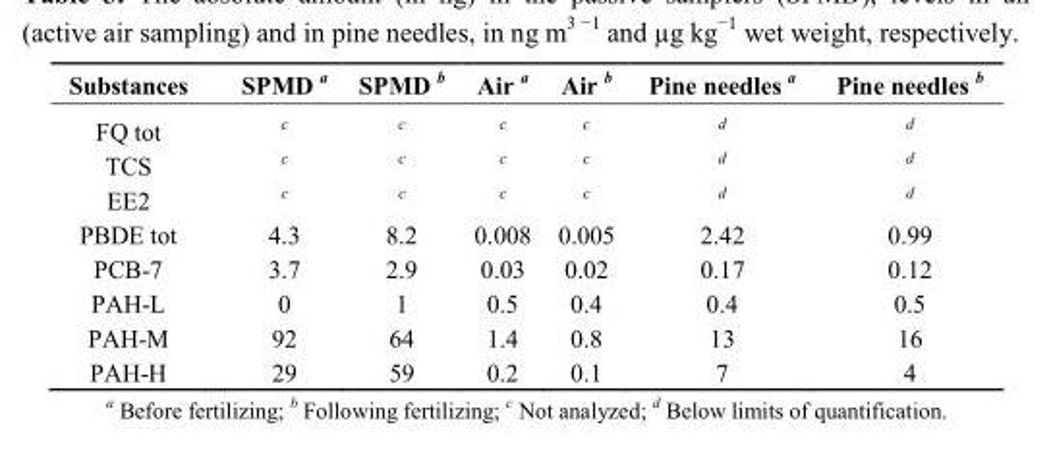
<table><thead><tr><td>Substances</td><td>SPMD <sup>a</sup></td><td>SPMD <sup>b</sup></td><td>Air <sup>a</sup></td><td>Air <sup>b</sup></td><td>Pine needles <sup>a</sup></td><td>Pine needles <sup>b</sup></td></tr></thead><tbody><tr><td>FQ tot</td><td><sup>c</sup></td><td><sup>c</sup></td><td><sup>c</sup></td><td><sup>c</sup></td><td><sup>d</sup></td><td><sup>d</sup></td></tr><tr><td>TCS</td><td><sup>c</sup></td><td><sup>c</sup></td><td><sup>c</sup></td><td><sup>c</sup></td><td><sup>d</sup></td><td><sup>d</sup></td></tr><tr><td>EE2</td><td><sup>c</sup></td><td><sup>c</sup></td><td><sup>c</sup></td><td><sup>c</sup></td><td><sup>d</sup></td><td><sup>d</sup></td></tr><tr><td>PBDE tot</td><td>4.3</td><td>8.2</td><td>0.008</td><td>0.005</td><td>2.42</td><td>0.99</td></tr><tr><td>PCB-7</td><td>3.7</td><td>2.9</td><td>0.03</td><td>0.02</td><td>0.17</td><td>0.12</td></tr><tr><td>PAH-L</td><td>0</td><td>1</td><td>0.5</td><td>0.4</td><td>0.4</td><td>0.5</td></tr><tr><td>PAH-M</td><td>92</td><td>64</td><td>1.4</td><td>0.8</td><td>13</td><td>16</td></tr><tr><td>PAH-H</td><td>29</td><td>59</td><td>0.2</td><td>0.1</td><td>7</td><td>4</td></tr></tbody></table>